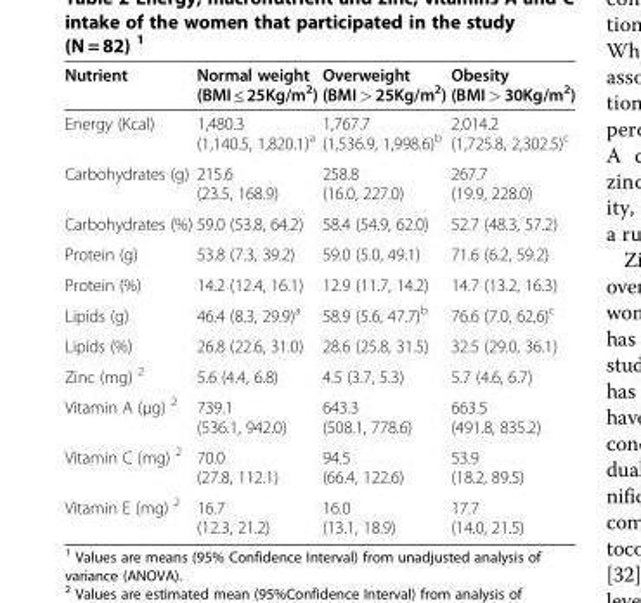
<table><thead><tr><td>Nutrient</td><td>Normal weight (BMI ≤ 25Kg/m<sup>2</sup>)</td><td>Overweight (BMI &gt; 25Kg/m<sup>2</sup>)</td><td>Obesity (BMI &gt; 30Kg/m<sup>2</sup>)</td></tr></thead><tbody><tr><td>Energy (Kcal)</td><td>1,480.3 (1,140.5, 1,820.1)<sup>a</sup></td><td>1,767.7 (1,536.9, 1,998.6)<sup>b</sup></td><td>2,014.2 (1,725.8, 2,302.5)<sup>c</sup></td></tr><tr><td>Carbohydrates (g)</td><td>215.6 (23.5, 168.9)</td><td>258.8 (16.0, 227.0)</td><td>267.7 (19.9, 228.0)</td></tr><tr><td>Carbohydrates (%)</td><td>59.0 (53.8, 64.2)</td><td>58.4 (54.9, 62.0)</td><td>52.7 (48.3, 57.2)</td></tr><tr><td>Protein (g)</td><td>53.8 (7.3, 39.2)</td><td>59.0 (5.0, 49.1)</td><td>71.6 (6.2, 59.2)</td></tr><tr><td>Protein (%)</td><td>14.2 (12.4, 16.1)</td><td>12.9 (11.7, 14.2)</td><td>14.7 (13.2, 16.3)</td></tr><tr><td>Lipids (g)</td><td>46.4 (8.3, 29.9)<sup>a</sup></td><td>58.9 (5.6, 47.7)<sup>b</sup></td><td>76.6 (7.0, 62.6)<sup>c</sup></td></tr><tr><td>Lipids (%)</td><td>26.8 (22.6, 31.0)</td><td>28.6 (25.8, 31.5)</td><td>32.5 (29.0, 36.1)</td></tr><tr><td>Zinc (mg) <sup>2</sup></td><td>5.6 (4.4, 6.8)</td><td>4.5 (3.7, 5.3)</td><td>5.7 (4.6, 6.7)</td></tr><tr><td>Vitamin A (μg) <sup>2</sup></td><td>739.1 (536.1, 942.0)</td><td>643.3 (508.1, 778.6)</td><td>663.5 (491.8, 835.2)</td></tr><tr><td>Vitamin C (mg) <sup>2</sup></td><td>70.0 (27.8, 112.1)</td><td>94.5 (66.4, 122.6)</td><td>53.9 (18.2, 89.5)</td></tr><tr><td>Vitamin E (mg) <sup>2</sup></td><td>16.7 (12.3, 21.2)</td><td>16.0 (13.1, 18.9)</td><td>17.7 (14.0, 21.5)</td></tr></tbody></table>